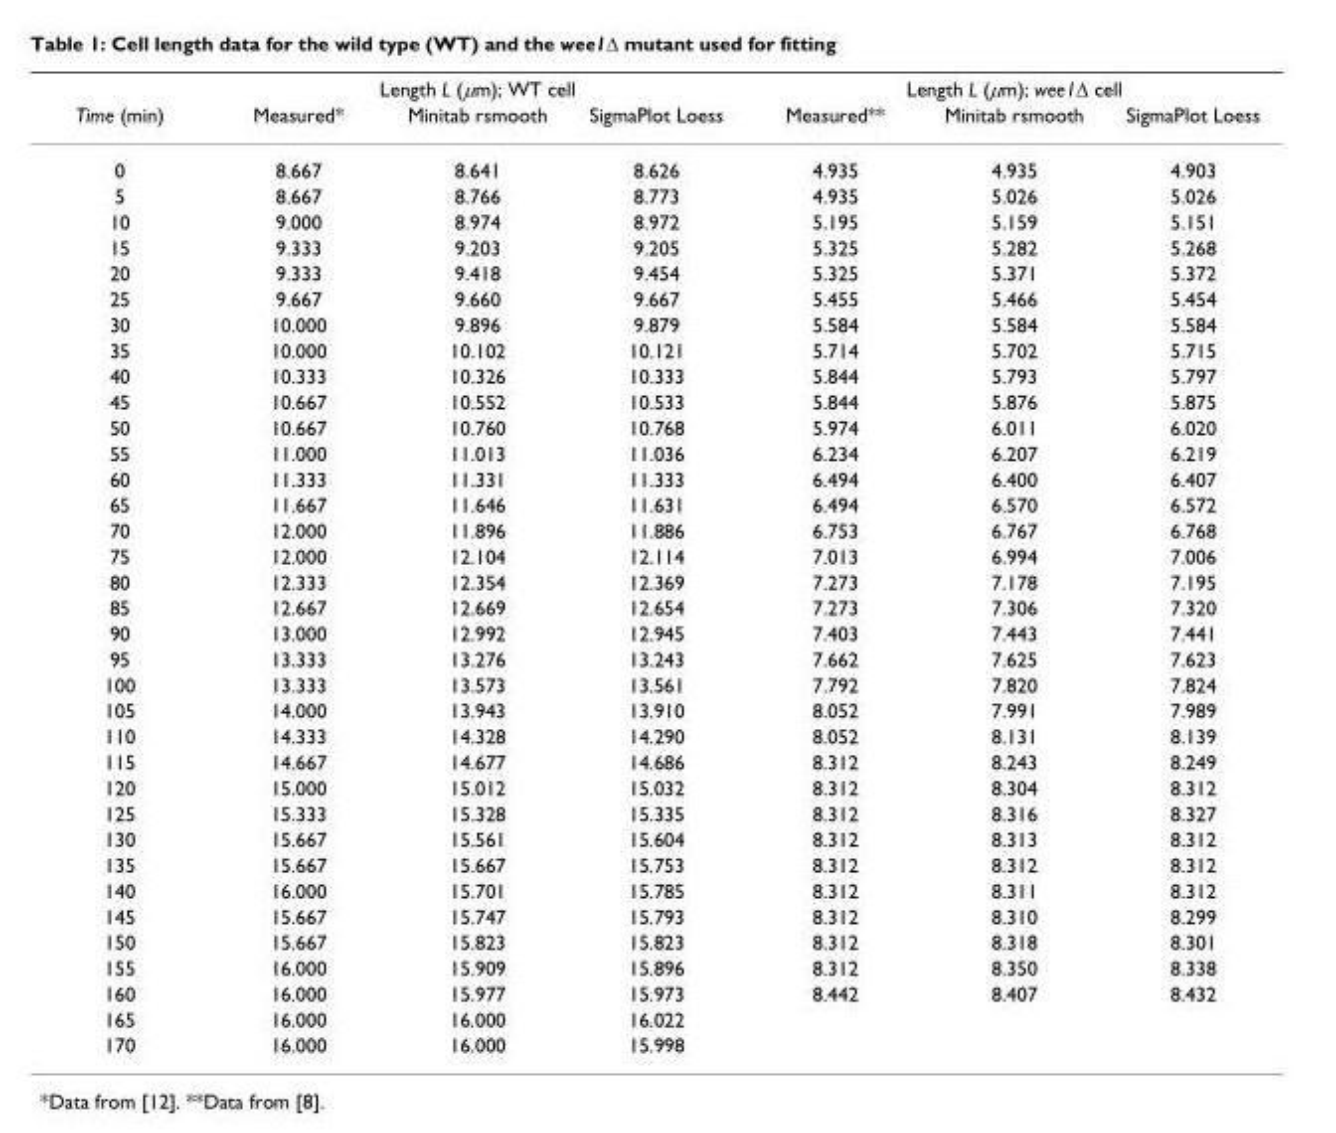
<table><thead><tr><td rowspan="2">Time (min)</td><td colspan="3">Length L (µm); WT cell</td><td colspan="3">Length L (µm); wee1∆ cell</td></tr><tr><td>Measured*</td><td>Minitab rsmooth</td><td>SigmaPlot Loess</td><td>Measured**</td><td>Minitab rsmooth</td><td>SigmaPlot Loess</td></tr></thead><tbody><tr><td>0</td><td>8.667</td><td>8.641</td><td>8.626</td><td>4.935</td><td>4.935</td><td>4.903</td></tr><tr><td>5</td><td>8.667</td><td>8.766</td><td>8.773</td><td>4.935</td><td>5.026</td><td>5.026</td></tr><tr><td>10</td><td>9.000</td><td>8.974</td><td>8.972</td><td>5.195</td><td>5.159</td><td>5.151</td></tr><tr><td>15</td><td>9.333</td><td>9.203</td><td>9.205</td><td>5.325</td><td>5.282</td><td>5.268</td></tr><tr><td>20</td><td>9.333</td><td>9.418</td><td>9.454</td><td>5.325</td><td>5.371</td><td>5.372</td></tr><tr><td>25</td><td>9.667</td><td>9.660</td><td>9.667</td><td>5.455</td><td>5.466</td><td>5.454</td></tr><tr><td>30</td><td>10.000</td><td>9.896</td><td>9.879</td><td>5.584</td><td>5.584</td><td>5.584</td></tr><tr><td>35</td><td>10.000</td><td>10.102</td><td>10.121</td><td>5.714</td><td>5.702</td><td>5.715</td></tr><tr><td>40</td><td>10.333</td><td>10.326</td><td>10.333</td><td>5.844</td><td>5.793</td><td>5.797</td></tr><tr><td>45</td><td>10.667</td><td>10.552</td><td>10.533</td><td>5.844</td><td>5.876</td><td>5.875</td></tr><tr><td>50</td><td>10.667</td><td>10.760</td><td>10.768</td><td>5.974</td><td>6.011</td><td>6.020</td></tr><tr><td>55</td><td>11.000</td><td>11.013</td><td>11.036</td><td>6.234</td><td>6.207</td><td>6.219</td></tr><tr><td>60</td><td>11.333</td><td>11.331</td><td>11.333</td><td>6.494</td><td>6.400</td><td>6.407</td></tr><tr><td>65</td><td>11.667</td><td>11.646</td><td>11.631</td><td>6.494</td><td>6.570</td><td>6.572</td></tr><tr><td>70</td><td>12.000</td><td>11.896</td><td>11.886</td><td>6.753</td><td>6.767</td><td>6.768</td></tr><tr><td>75</td><td>12.000</td><td>12.104</td><td>12.114</td><td>7.013</td><td>6.994</td><td>7.006</td></tr><tr><td>80</td><td>12.333</td><td>12.354</td><td>12.369</td><td>7.273</td><td>7.178</td><td>7.195</td></tr><tr><td>85</td><td>12.667</td><td>12.669</td><td>12.654</td><td>7.273</td><td>7.306</td><td>7.320</td></tr><tr><td>90</td><td>13.000</td><td>12.992</td><td>12.945</td><td>7.403</td><td>7.443</td><td>7.441</td></tr><tr><td>95</td><td>13.333</td><td>13.276</td><td>13.243</td><td>7.662</td><td>7.625</td><td>7.623</td></tr><tr><td>100</td><td>13.333</td><td>13.573</td><td>13.561</td><td>7.792</td><td>7.820</td><td>7.824</td></tr><tr><td>105</td><td>14.000</td><td>13.943</td><td>13.910</td><td>8.052</td><td>7.991</td><td>7.989</td></tr><tr><td>110</td><td>14.333</td><td>14.328</td><td>14.290</td><td>8.052</td><td>8.131</td><td>8.139</td></tr><tr><td>115</td><td>14.667</td><td>14.677</td><td>14.686</td><td>8.312</td><td>8.243</td><td>8.249</td></tr><tr><td>120</td><td>15.000</td><td>15.012</td><td>15.032</td><td>8.312</td><td>8.304</td><td>8.312</td></tr><tr><td>125</td><td>15.333</td><td>15.328</td><td>15.335</td><td>8.312</td><td>8.316</td><td>8.327</td></tr><tr><td>130</td><td>15.667</td><td>15.561</td><td>15.604</td><td>8.312</td><td>8.313</td><td>8.312</td></tr><tr><td>135</td><td>15.667</td><td>15.667</td><td>15.753</td><td>8.312</td><td>8.312</td><td>8.312</td></tr><tr><td>140</td><td>16.000</td><td>15.701</td><td>15.785</td><td>8.312</td><td>8.311</td><td>8.312</td></tr><tr><td>145</td><td>15.667</td><td>15.747</td><td>15.793</td><td>8.312</td><td>8.310</td><td>8.299</td></tr><tr><td>150</td><td>15.667</td><td>15.823</td><td>15.823</td><td>8.312</td><td>8.318</td><td>8.301</td></tr><tr><td>155</td><td>16.000</td><td>15.909</td><td>15.896</td><td>8.312</td><td>8.350</td><td>8.338</td></tr><tr><td>160</td><td>16.000</td><td>15.977</td><td>15.973</td><td>8.442</td><td>8.407</td><td>8.432</td></tr><tr><td>165</td><td>16.000</td><td>16.000</td><td>16.022</td><td></td><td></td><td></td></tr><tr><td>170</td><td>16.000</td><td>16.000</td><td>15.998</td><td></td><td></td><td></td></tr></tbody></table>